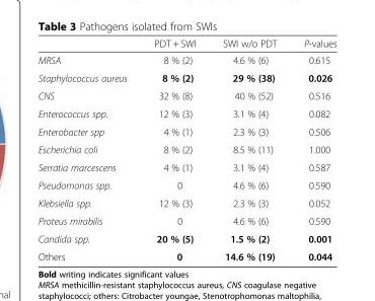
<table><thead><tr><td></td><td>PDT + SWI</td><td>SWI w/o PDT</td><td>P-values</td></tr></thead><tbody><tr><td>MRSA</td><td>8 % (2)</td><td>4.6 % (6)</td><td>0.615</td></tr><tr><td>Staphylococcus aureus</td><td>8 % (2)</td><td>29 % (38)</td><td>0.026</td></tr><tr><td>CNS</td><td>32 % (8)</td><td>40 % (52)</td><td>0.516</td></tr><tr><td>Enterococcus spp.</td><td>12 % (3)</td><td>3.1 % (4)</td><td>0.082</td></tr><tr><td>Enterobacter spp</td><td>4 % (1)</td><td>2.3 % (3)</td><td>0.506</td></tr><tr><td>Escherichia coli</td><td>8 % (2)</td><td>8.5 % (11)</td><td>1.000</td></tr><tr><td>Serratia marcescens</td><td>4 % (1)</td><td>3.1 % (4)</td><td>0.587</td></tr><tr><td>Pseudomonas spp.</td><td>0</td><td>4.6 % (6)</td><td>0.590</td></tr><tr><td>Klebsiella spp.</td><td>12 % (3)</td><td>2.3 % (3)</td><td>0.052</td></tr><tr><td>Proteus mirabilis</td><td>0</td><td>4.6 % (6)</td><td>0.590</td></tr><tr><td>Candida spp.</td><td>20 % (5)</td><td>1.5 % (2)</td><td>0.001</td></tr><tr><td>Others</td><td>0</td><td>14.6 % (19)</td><td>0.044</td></tr></tbody></table>